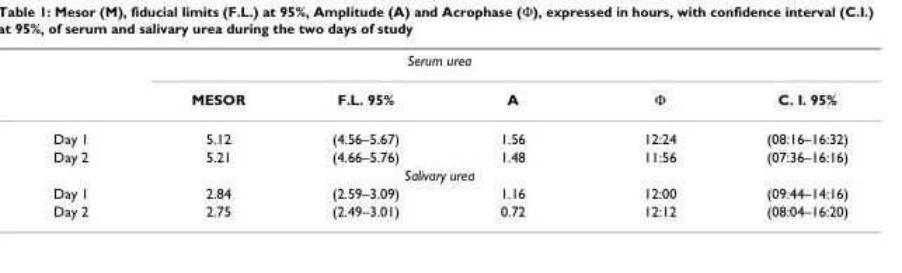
<table><thead><tr><td colspan="6">Serum urea</td></tr><tr><td></td><td>MESOR</td><td>F.L. 95%</td><td>A</td><td>Φ</td><td>C. I. 95%</td></tr></thead><tbody><tr><td>Day 1</td><td>5.12</td><td>(4.56–5.67)</td><td>1.56</td><td>12:24</td><td>(08:16–16:32)</td></tr><tr><td>Day 2</td><td>5.21</td><td>(4.66–5.76)</td><td>1.48</td><td>11:56</td><td>(07:36–16:16)</td></tr><tr><td colspan="6">Salivary urea</td></tr><tr><td>Day 1</td><td>2.84</td><td>(2.59–3.09)</td><td>1.16</td><td>12:00</td><td>(09:44–14:16)</td></tr><tr><td>Day 2</td><td>2.75</td><td>(2.49–3.01)</td><td>0.72</td><td>12:12</td><td>(08:04–16:20)</td></tr></tbody></table>